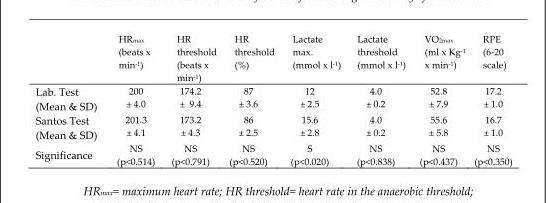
<table><thead><tr><td></td><td>HRmax (beats x min-1)</td><td>HR threshold (beats x min-1)</td><td>HR threshold (%)</td><td>Lactate max. (mmol x l-1)</td><td>Lactate threshold (mmol x l-1)</td><td>VO2max (ml x Kg-1 x min-1)</td><td>RPE (6-20 scale)</td></tr></thead><tbody><tr><td>Lab. Test (Mean &amp; SD)</td><td>200 ± 4.0</td><td>174.2 ± 9.4</td><td>87 ± 3.6</td><td>12 ± 2.5</td><td>4.0 ± 0.2</td><td>52.8 ± 7.9</td><td>17.2 ± 1.0</td></tr><tr><td>Santos Test (Mean &amp; SD)</td><td>201.3 ± 4.1</td><td>173.2 ± 4.3</td><td>86 ± 2.5</td><td>15.6 ± 2.8</td><td>4.0 ± 0.2</td><td>55.6 ± 5.8</td><td>16.7 ± 1.0</td></tr><tr><td>Significance</td><td>NS (p&lt;0.514)</td><td>NS (p&lt;0.791)</td><td>NS (p&lt;0.520)</td><td>S (p&lt;0.020)</td><td>NS (p&lt;0.838)</td><td>NS (p&lt;0.437)</td><td>NS (p&lt;0.350)</td></tr></tbody></table>